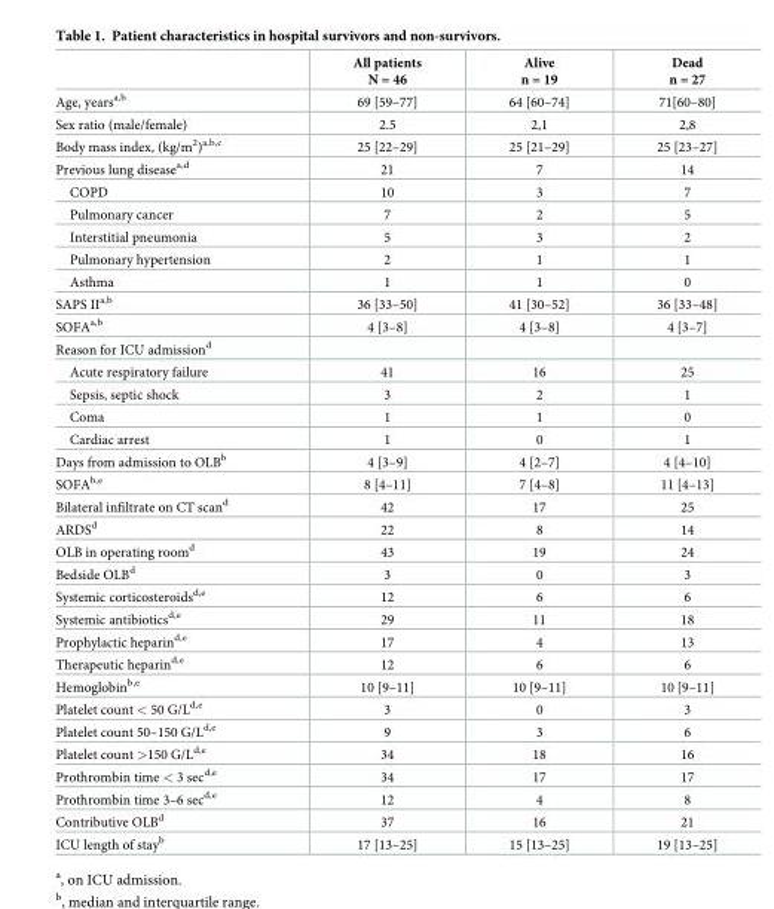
<table><thead><tr><td></td><td>All patients N = 46</td><td>Alive n = 19</td><td>Dead n = 27</td></tr></thead><tbody><tr><td>Age, years<sup>a,b</sup></td><td>69 [59–77]</td><td>64 [60–74]</td><td>71[60–80]</td></tr><tr><td>Sex ratio (male/female)</td><td>2.5</td><td>2,1</td><td>2,8</td></tr><tr><td>Body mass index, (kg/m<sup>2</sup>)<sup>a,b,c</sup></td><td>25 [22–29]</td><td>25 [21–29]</td><td>25 [23–27]</td></tr><tr><td>Previous lung disease<sup>a,d</sup></td><td>21</td><td>7</td><td>14</td></tr><tr><td>COPD</td><td>10</td><td>3</td><td>7</td></tr><tr><td>Pulmonary cancer</td><td>7</td><td>2</td><td>5</td></tr><tr><td>Interstitial pneumonia</td><td>5</td><td>3</td><td>2</td></tr><tr><td>Pulmonary hypertension</td><td>2</td><td>1</td><td>1</td></tr><tr><td>Asthma</td><td>1</td><td>1</td><td>0</td></tr><tr><td>SAPS II<sup>a,b</sup></td><td>36 [33–50]</td><td>41 [30–52]</td><td>36 [33–48]</td></tr><tr><td>SOFA<sup>a,b</sup></td><td>4 [3–8]</td><td>4 [3–8]</td><td>4 [3–7]</td></tr><tr><td colspan="4">Reason for ICU admission<sup>d</sup></td></tr><tr><td>Acute respiratory failure</td><td>41</td><td>16</td><td>25</td></tr><tr><td>Sepsis, septic shock</td><td>3</td><td>2</td><td>1</td></tr><tr><td>Coma</td><td>1</td><td>1</td><td>0</td></tr><tr><td>Cardiac arrest</td><td>1</td><td>0</td><td>1</td></tr><tr><td>Days from admission to OLB<sup>b</sup></td><td>4 [3–9]</td><td>4 [2–7]</td><td>4 [4–10]</td></tr><tr><td>SOFA<sup>b,e</sup></td><td>8 [4–11]</td><td>7 [4–8]</td><td>11 [4–13]</td></tr><tr><td>Bilateral infiltrate on CT scan<sup>d</sup></td><td>42</td><td>17</td><td>25</td></tr><tr><td>ARDS<sup>d</sup></td><td>22</td><td>8</td><td>14</td></tr><tr><td>OLB in operating room<sup>d</sup></td><td>43</td><td>19</td><td>24</td></tr><tr><td>Bedside OLB<sup>d</sup></td><td>3</td><td>0</td><td>3</td></tr><tr><td>Systemic corticosteroids<sup>d,e</sup></td><td>12</td><td>6</td><td>6</td></tr><tr><td>Systemic antibiotics<sup>d,e</sup></td><td>29</td><td>11</td><td>18</td></tr><tr><td>Prophylactic heparin<sup>d,e</sup></td><td>17</td><td>4</td><td>13</td></tr><tr><td>Therapeutic heparin<sup>d,e</sup></td><td>12</td><td>6</td><td>6</td></tr><tr><td>Hemoglobin<sup>b,e</sup></td><td>10 [9–11]</td><td>10 [9–11]</td><td>10 [9–11]</td></tr><tr><td>Platelet count &lt; 50 G/L<sup>d,e</sup></td><td>3</td><td>0</td><td>3</td></tr><tr><td>Platelet count 50–150 G/L<sup>d,e</sup></td><td>9</td><td>3</td><td>6</td></tr><tr><td>Platelet count &gt;150 G/L<sup>d,e</sup></td><td>34</td><td>18</td><td>16</td></tr><tr><td>Prothrombin time &lt; 3 sec<sup>d,e</sup></td><td>34</td><td>17</td><td>17</td></tr><tr><td>Prothrombin time 3–6 sec<sup>d,e</sup></td><td>12</td><td>4</td><td>8</td></tr><tr><td>Contributive OLB<sup>d</sup></td><td>37</td><td>16</td><td>21</td></tr><tr><td>ICU length of stay<sup>b</sup></td><td>17 [13–25]</td><td>15 [13–25]</td><td>19 [13–25]</td></tr></tbody></table>